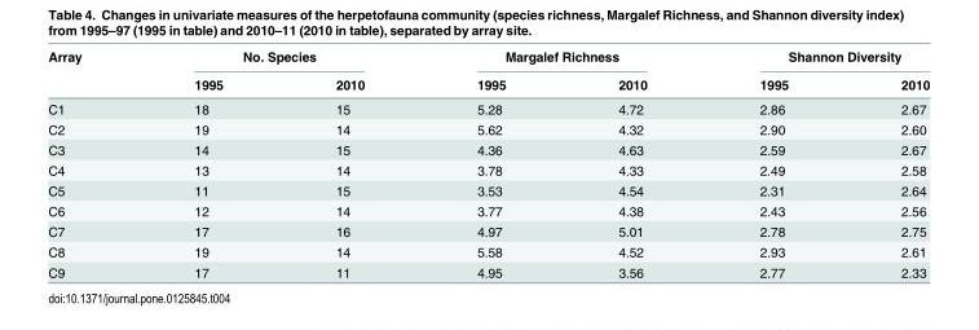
<table><thead><tr><td rowspan="2">Array</td><td colspan="2">No. Species</td><td colspan="2">Margalef Richness</td><td colspan="2">Shannon Diversity</td></tr><tr><td>1995</td><td>2010</td><td>1995</td><td>2010</td><td>1995</td><td>2010</td></tr></thead><tbody><tr><td>C1</td><td>18</td><td>15</td><td>5.28</td><td>4.72</td><td>2.86</td><td>2.67</td></tr><tr><td>C2</td><td>19</td><td>14</td><td>5.62</td><td>4.32</td><td>2.90</td><td>2.60</td></tr><tr><td>C3</td><td>14</td><td>15</td><td>4.36</td><td>4.63</td><td>2.59</td><td>2.67</td></tr><tr><td>C4</td><td>13</td><td>14</td><td>3.78</td><td>4.33</td><td>2.49</td><td>2.58</td></tr><tr><td>C5</td><td>11</td><td>15</td><td>3.53</td><td>4.54</td><td>2.31</td><td>2.64</td></tr><tr><td>C6</td><td>12</td><td>14</td><td>3.77</td><td>4.38</td><td>2.43</td><td>2.56</td></tr><tr><td>C7</td><td>17</td><td>16</td><td>4.97</td><td>5.01</td><td>2.78</td><td>2.75</td></tr><tr><td>C8</td><td>19</td><td>14</td><td>5.58</td><td>4.52</td><td>2.93</td><td>2.61</td></tr><tr><td>C9</td><td>17</td><td>11</td><td>4.95</td><td>3.56</td><td>2.77</td><td>2.33</td></tr></tbody></table>